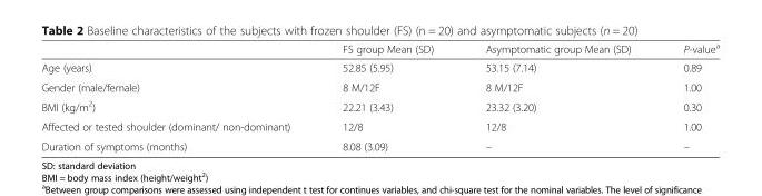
<table><thead><tr><td></td><td>FS group Mean (SD)</td><td>Asymptomatic group Mean (SD)</td><td>P-value<sup>a</sup></td></tr></thead><tbody><tr><td>Age (years)</td><td>52.85 (5.95)</td><td>53.15 (7.14)</td><td>0.89</td></tr><tr><td>Gender (male/female)</td><td>8 M/12F</td><td>8 M/12F</td><td>1.00</td></tr><tr><td>BMI (kg/m<sup>2</sup>)</td><td>22.21 (3.43)</td><td>23.32 (3.20)</td><td>0.30</td></tr><tr><td>Affected or tested shoulder (dominant/ non-dominant)</td><td>12/8</td><td>12/8</td><td>1.00</td></tr><tr><td>Duration of symptoms (months)</td><td>8.08 (3.09)</td><td>–</td><td>–</td></tr></tbody></table>